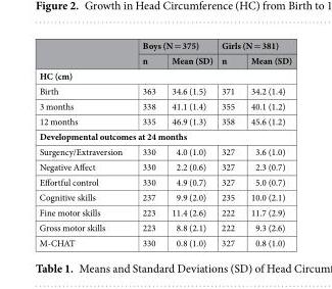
<table><thead><tr><td rowspan="2"></td><td colspan="2">Boys (N = 375)</td><td colspan="2">Girls (N = 381)</td></tr><tr><td>n</td><td>Mean (SD)</td><td>n</td><td>Mean (SD)</td></tr></thead><tbody><tr><td colspan="5">HC (cm)</td></tr><tr><td>Birth</td><td>363</td><td>34.6 (1.5)</td><td>371</td><td>34.2 (1.4)</td></tr><tr><td>3 months</td><td>338</td><td>41.1 (1.4)</td><td>355</td><td>40.1 (1.2)</td></tr><tr><td>12 months</td><td>335</td><td>46.9 (1.3)</td><td>358</td><td>45.6 (1.2)</td></tr><tr><td colspan="5">Developmental outcomes at 24 months</td></tr><tr><td>Surgency/Extraversion</td><td>330</td><td>4.0 (1.0)</td><td>327</td><td>3.6 (1.0)</td></tr><tr><td>Negative Affect</td><td>330</td><td>2.2 (0.6)</td><td>327</td><td>2.3 (0.7)</td></tr><tr><td>Effortful control</td><td>330</td><td>4.9 (0.7)</td><td>327</td><td>5.0 (0.7)</td></tr><tr><td>Cognitive skills</td><td>237</td><td>9.9 (2.0)</td><td>235</td><td>10.0 (2.1)</td></tr><tr><td>Fine motor skills</td><td>223</td><td>11.4 (2.6)</td><td>222</td><td>11.7 (2.9)</td></tr><tr><td>Gross motor skills</td><td>223</td><td>8.8 (2.1)</td><td>222</td><td>9.3 (2.6)</td></tr><tr><td>M-CHAT</td><td>330</td><td>0.8 (1.0)</td><td>327</td><td>0.8 (1.0)</td></tr></tbody></table>